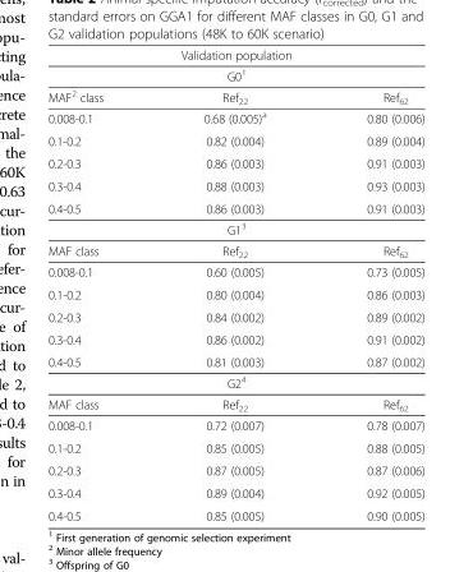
<table><thead><tr><td rowspan="2" colspan="3">Validation population G0<sup>1</sup></td></tr><tr></tr><tr><td>MAF<sup>2</sup> class</td><td>Ref<sub>22</sub></td><td>Ref<sub>62</sub></td></tr></thead><tbody><tr><td>0.008-0.1</td><td>0.68 (0.005)<sup>a</sup></td><td>0.80 (0.006)</td></tr><tr><td>0.1-0.2</td><td>0.82 (0.004)</td><td>0.89 (0.004)</td></tr><tr><td>0.2-0.3</td><td>0.86 (0.003)</td><td>0.91 (0.003)</td></tr><tr><td>0.3-0.4</td><td>0.88 (0.003)</td><td>0.93 (0.003)</td></tr><tr><td>0.4-0.5</td><td>0.86 (0.003)</td><td>0.91 (0.003)</td></tr><tr><td colspan="3">G1<sup>3</sup></td></tr><tr><td>MAF class</td><td>Ref<sub>22</sub></td><td>Ref<sub>62</sub></td></tr><tr><td>0.008-0.1</td><td>0.60 (0.005)</td><td>0.73 (0.005)</td></tr><tr><td>0.1-0.2</td><td>0.80 (0.004)</td><td>0.86 (0.003)</td></tr><tr><td>0.2-0.3</td><td>0.84 (0.002)</td><td>0.89 (0.002)</td></tr><tr><td>0.3-0.4</td><td>0.86 (0.002)</td><td>0.91 (0.002)</td></tr><tr><td>0.4-0.5</td><td>0.81 (0.003)</td><td>0.87 (0.002)</td></tr><tr><td colspan="3">G2<sup>4</sup></td></tr><tr><td>MAF class</td><td>Ref<sub>22</sub></td><td>Ref<sub>62</sub></td></tr><tr><td>0.008-0.1</td><td>0.72 (0.007)</td><td>0.78 (0.007)</td></tr><tr><td>0.1-0.2</td><td>0.85 (0.005)</td><td>0.88 (0.005)</td></tr><tr><td>0.2-0.3</td><td>0.87 (0.005)</td><td>0.87 (0.006)</td></tr><tr><td>0.3-0.4</td><td>0.89 (0.004)</td><td>0.92 (0.005)</td></tr><tr><td>0.4-0.5</td><td>0.85 (0.005)</td><td>0.90 (0.005)</td></tr></tbody></table>